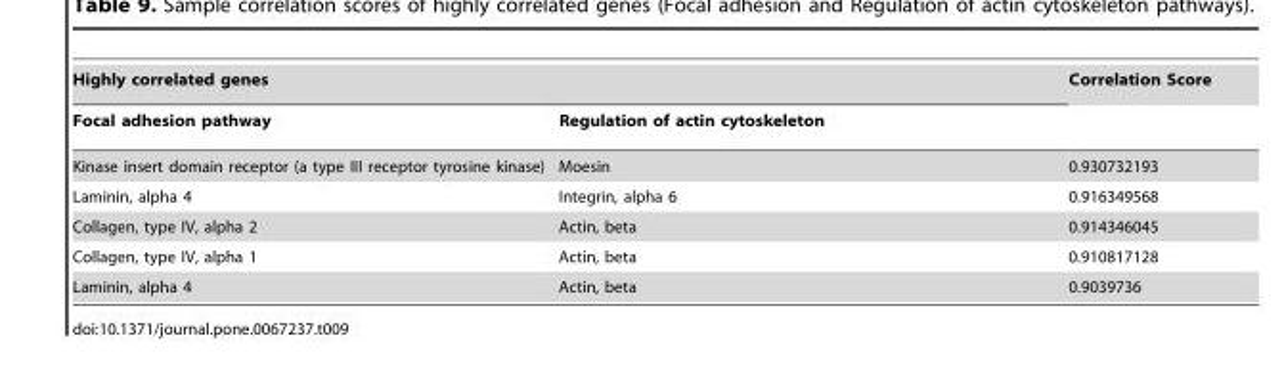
<table><tbody><tr><td colspan="2">Highly correlated genes</td><td>Correlation Score</td></tr><tr><td>Focal adhesion pathway</td><td>Regulation of actin cytoskeleton</td><td></td></tr><tr><td>Kinase insert domain receptor (a type III receptor tyrosine kinase)</td><td>Moesin</td><td>0.930732193</td></tr><tr><td>Laminin, alpha 4</td><td>Integrin, alpha 6</td><td>0.916349568</td></tr><tr><td>Collagen, type IV, alpha 2</td><td>Actin, beta</td><td>0.914346045</td></tr><tr><td>Collagen, type IV, alpha 1</td><td>Actin, beta</td><td>0.910817128</td></tr><tr><td>Laminin, alpha 4</td><td>Actin, beta</td><td>0.9039736</td></tr></tbody></table>